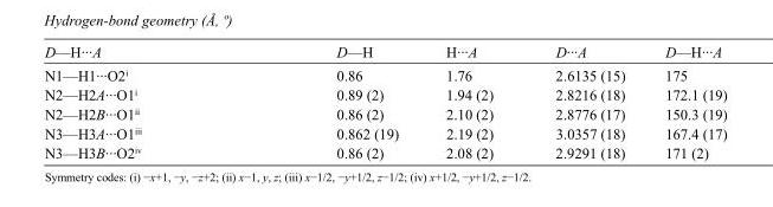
<table><tbody><tr><td>D—H···A</td><td>D—H</td><td>H···A</td><td>D···A</td><td>D—H···A</td></tr><tr><td>N1—H1···O2<sup>i</sup></td><td>0.86</td><td>1.76</td><td>2.6135 (15)</td><td>175</td></tr><tr><td>N2—H2A···O1<sup>i</sup></td><td>0.89 (2)</td><td>1.94 (2)</td><td>2.8216 (18)</td><td>172.1 (19)</td></tr><tr><td>N2—H2B···O1<sup>ii</sup></td><td>0.86 (2)</td><td>2.10 (2)</td><td>2.8776 (17)</td><td>150.3 (19)</td></tr><tr><td>N3—H3A···O1<sup>iii</sup></td><td>0.862 (19)</td><td>2.19 (2)</td><td>3.0357 (18)</td><td>167.4 (17)</td></tr><tr><td>N3—H3B···O2<sup>iv</sup></td><td>0.86 (2)</td><td>2.08 (2)</td><td>2.9291 (18)</td><td>171 (2)</td></tr></tbody></table>